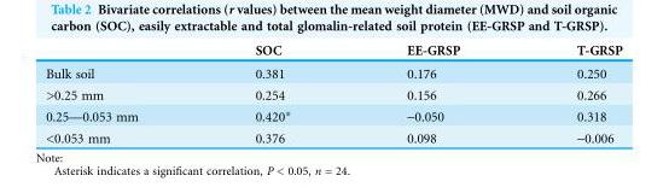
<table><thead><tr><td></td><td>SOC</td><td>EE-GRSP</td><td>T-GRSP</td></tr></thead><tbody><tr><td>Bulk soil</td><td>0.381</td><td>0.176</td><td>0.250</td></tr><tr><td>&gt;0.25 mm</td><td>0.254</td><td>0.156</td><td>0.266</td></tr><tr><td>0.25––0.053 mm</td><td>0.420*</td><td>-0.050</td><td>0.318</td></tr><tr><td>&lt;0.053 mm</td><td>0.376</td><td>0.098</td><td>-0.006</td></tr></tbody></table>